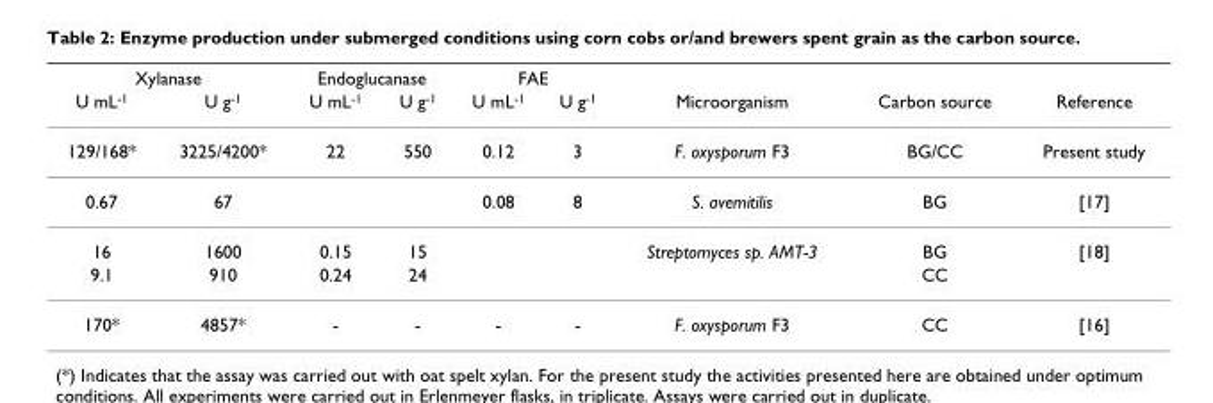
<table><thead><tr><td colspan="2">Xylanase</td><td colspan="2">Endoglucanase</td><td colspan="2">FAE</td><td rowspan="2">Microorganism</td><td rowspan="2">Carbon source</td><td rowspan="2">Reference</td></tr><tr><td>U mL<sup>-1</sup></td><td>U g<sup>-1</sup></td><td>U mL<sup>-1</sup></td><td>U g<sup>-1</sup></td><td>U mL<sup>-1</sup></td><td>U g<sup>-1</sup></td></tr></thead><tbody><tr><td>129/168*</td><td>3225/4200*</td><td>22</td><td>550</td><td>0.12</td><td>3</td><td>F. oxysporum F3</td><td>BG/CC</td><td>Present study</td></tr><tr><td>0.67</td><td>67</td><td></td><td></td><td>0.08</td><td>8</td><td>S. avemitilis</td><td>BG</td><td>[17]</td></tr><tr><td>16</td><td>1600</td><td>0.15</td><td>15</td><td></td><td></td><td>Streptomyces sp. AMT-3</td><td>BG</td><td>[18]</td></tr><tr><td>9.1</td><td>910</td><td>0.24</td><td>24</td><td></td><td></td><td></td><td>CC</td><td></td></tr><tr><td>170*</td><td>4857*</td><td>-</td><td>-</td><td>-</td><td>-</td><td>F. oxysporum F3</td><td>CC</td><td>[16]</td></tr></tbody></table>